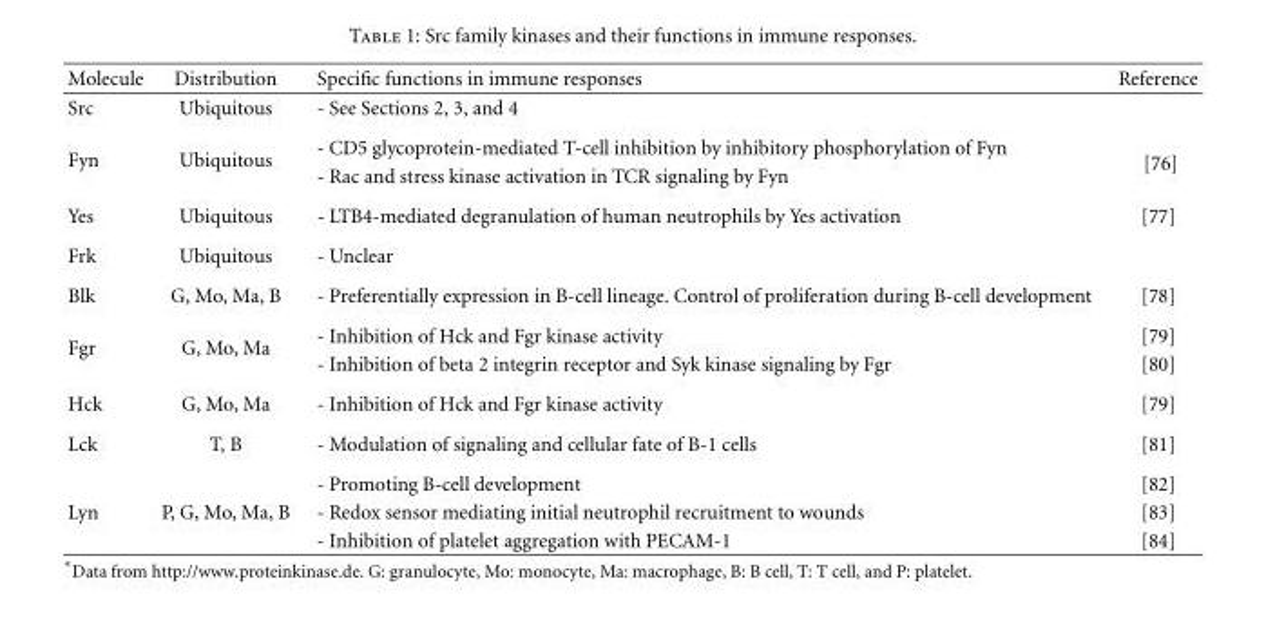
<table><thead><tr><td>Molecule</td><td>Distribution</td><td>Specific functions in immune responses</td><td>Reference</td></tr></thead><tbody><tr><td>Src</td><td>Ubiquitous</td><td>- See Sections 2, 3, and 4</td><td></td></tr><tr><td rowspan="2">Fyn</td><td rowspan="2">Ubiquitous</td><td>- CD5 glycoprotein-mediated T-cell inhibition by inhibitory phosphorylation of Fyn</td><td rowspan="2">[76]</td></tr><tr><td>- Rac and stress kinase activation in TCR signaling by Fyn</td></tr><tr><td>Yes</td><td>Ubiquitous</td><td>- LTB4-mediated degranulation of human neutrophils by Yes activation</td><td>[77]</td></tr><tr><td>Frk</td><td>Ubiquitous</td><td>- Unclear</td><td></td></tr><tr><td>Blk</td><td>G, Mo, Ma, B</td><td>- Preferentially expression in B-cell lineage. Control of proliferation during B-cell development</td><td>[78]</td></tr><tr><td rowspan="2">Fgr</td><td rowspan="2">G, Mo, Ma</td><td>- Inhibition of Hck and Fgr kinase activity</td><td>[79]</td></tr><tr><td>- Inhibition of beta 2 integrin receptor and Syk kinase signaling by Fgr</td><td>[80]</td></tr><tr><td>Hck</td><td>G, Mo, Ma</td><td>- Inhibition of Hck and Fgr kinase activity</td><td>[79]</td></tr><tr><td rowspan="2">Lck</td><td>T, B</td><td>- Modulation of signaling and cellular fate of B-1 cells</td><td>[81]</td></tr><tr><td></td><td>- Promoting B-cell development</td><td>[82]</td></tr><tr><td rowspan="2">Lyn</td><td>P, G, Mo, Ma, B</td><td>- Redox sensor mediating initial neutrophil recruitment to wounds</td><td>[83]</td></tr><tr><td></td><td>- Inhibition of platelet aggregation with PECAM-1</td><td>[84]</td></tr></tbody></table>